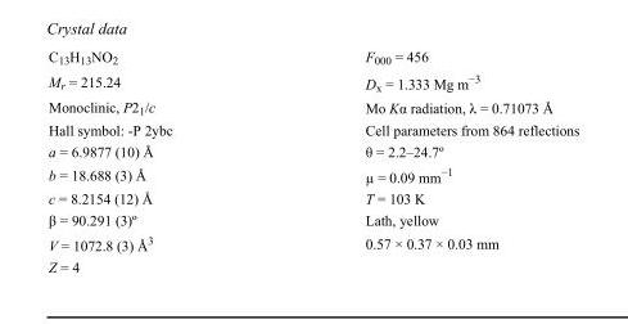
<table><tbody><tr><td>C<sub>13</sub>H<sub>13</sub>NO<sub>2</sub></td><td>F000 = 456</td></tr><tr><td>M<sub>r</sub> = 215.24</td><td>D<sub>x</sub> = 1.333 Mg m<sup>−3</sup></td></tr><tr><td>Monoclinic, P2<sub>1</sub>/c</td><td>Mo Kα radiation, λ = 0.71073 Å</td></tr><tr><td>Hall symbol: -P 2ybc</td><td>Cell parameters from 864 reflections</td></tr><tr><td>a = 6.9877 (10) Å</td><td>θ = 2.2–24.7º</td></tr><tr><td>b = 18.688 (3) Å</td><td>µ = 0.09 mm<sup>−1</sup></td></tr><tr><td>c = 8.2154 (12) Å</td><td>T = 103 K</td></tr><tr><td>β = 90.291 (3)º</td><td>Lath, yellow</td></tr><tr><td>V = 1072.8 (3) Å<sup>3</sup></td><td>0.57 × 0.37 × 0.03 mm</td></tr><tr><td>Z = 4</td><td></td></tr></tbody></table>